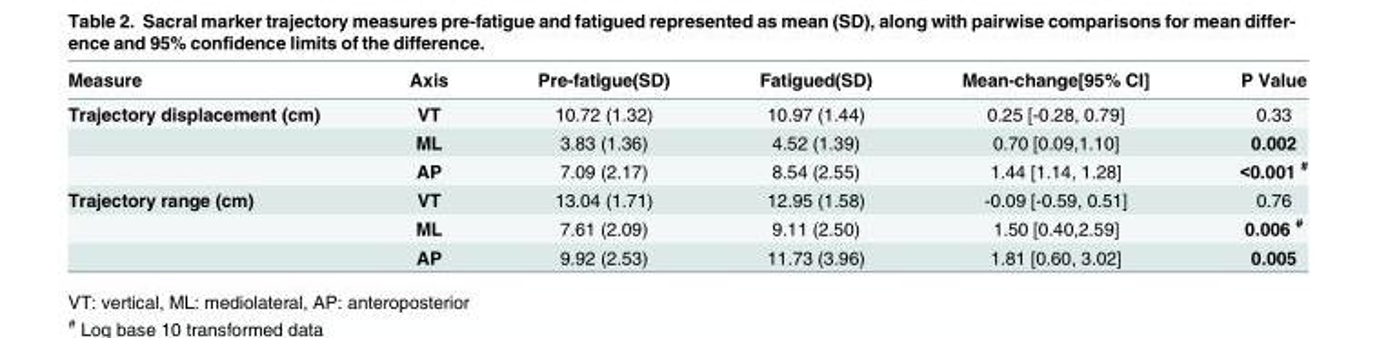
<table><thead><tr><td>Measure</td><td>Axis</td><td>Pre-fatigue(SD)</td><td>Fatigued(SD)</td><td>Mean-change[95% CI]</td><td>P Value</td></tr></thead><tbody><tr><td rowspan="3">Trajectory displacement (cm)</td><td>VT</td><td>10.72 (1.32)</td><td>10.97 (1.44)</td><td>0.25 [-0.28, 0.79]</td><td>0.33</td></tr><tr><td>ML</td><td>3.83 (1.36)</td><td>4.52 (1.39)</td><td>0.70 [0.09,1.10]</td><td>0.002</td></tr><tr><td>AP</td><td>7.09 (2.17)</td><td>8.54 (2.55)</td><td>1.44 [1.14, 1.28]</td><td>&lt;0.001 <sup>#</sup></td></tr><tr><td rowspan="3">Trajectory range (cm)</td><td>VT</td><td>13.04 (1.71)</td><td>12.95 (1.58)</td><td>-0.09 [-0.59, 0.51]</td><td>0.76</td></tr><tr><td>ML</td><td>7.61 (2.09)</td><td>9.11 (2.50)</td><td>1.50 [0.40,2.59]</td><td>0.006 <sup>#</sup></td></tr><tr><td>AP</td><td>9.92 (2.53)</td><td>11.73 (3.96)</td><td>1.81 [0.60, 3.02]</td><td>0.005</td></tr></tbody></table>